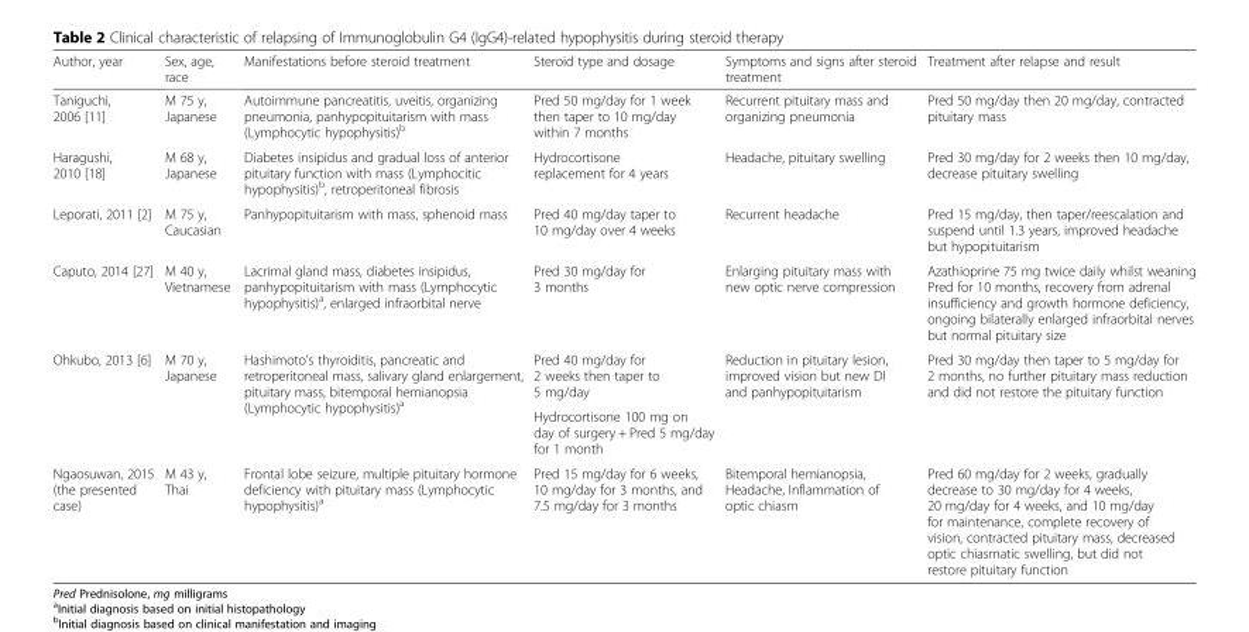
<table><thead><tr><td>Author, year</td><td>Sex, age, race</td><td>Manifestations before steroid treatment</td><td>Steroid type and dosage</td><td>Symptoms and signs after steroid treatment</td><td>Treatment after relapse and result</td></tr></thead><tbody><tr><td>Taniguchi, 2006 [11]</td><td>M 75 y, Japanese</td><td>Autoimmune pancreatitis, uveitis, organizing pneumonia, panhypopituitarism with mass (Lymphocytic hypophysitis)<sup>b</sup></td><td>Pred 50 mg/day for 1 week then taper to 10 mg/day within 7 months</td><td>Recurrent pituitary mass and organizing pneumonia</td><td>Pred 50 mg/day then 20 mg/day, contracted pituitary mass</td></tr><tr><td>Haragushi, 2010 [18]</td><td>M 68 y, Japanese</td><td>Diabetes insipidus and gradual loss of anterior pituitary function with mass (Lymphocitic hypophysitis)<sup>b</sup>, retroperitoneal fibrosis</td><td>Hydrocortisone replacement for 4 years</td><td>Headache, pituitary swelling</td><td>Pred 30 mg/day for 2 weeks then 10 mg/day, decrease pituitary swelling</td></tr><tr><td>Leporati, 2011 [2]</td><td>M 75 y, Caucasian</td><td>Panhypopituitarism with mass, sphenoid mass</td><td>Pred 40 mg/day taper to 10 mg/day over 4 weeks</td><td>Recurrent headache</td><td>Pred 15 mg/day, then taper/reescalation and suspend until 1.3 years, improved headache but hypopituitarism</td></tr><tr><td>Caputo, 2014 [27]</td><td>M 40 y, Vietnamese</td><td>Lacrimal gland mass, diabetes insipidus, panhypopituitarism with mass (Lymphocytic hypophysitis)<sup>a</sup>, enlarged infraorbital nerve</td><td>Pred 30 mg/day for 3 months</td><td>Enlarging pituitary mass with new optic nerve compression</td><td>Azathioprine 75 mg twice daily whilst weaning Pred for 10 months, recovery from adrenal insufficiency and growth hormone deficiency, ongoing bilaterally enlarged infraorbital nerves but normal pituitary size</td></tr><tr><td rowspan="2">Ohkubo, 2013 [6]</td><td rowspan="2">M 70 y, Japanese</td><td rowspan="2">Hashimoto’s thyroiditis, pancreatic and retroperitoneal mass, salivary gland enlargement, pituitary mass, bitemporal hemianopsia (Lymphocytic hypophysitis)<sup>a</sup></td><td>Pred 40 mg/day for 2 weeks then taper to 5 mg/day</td><td rowspan="2">Reduction in pituitary lesion, improved vision but new DI and panhypopituitarism</td><td rowspan="2">Pred 30 mg/day then taper to 5 mg/day for 2 months, no further pituitary mass reduction and did not restore the pituitary function</td></tr><tr><td>Hydrocortisone 100 mg on day of surgery + Pred 5 mg/day for 1 month</td></tr><tr><td>Ngaosuwan, 2015 (the presented case)</td><td>M 43 y, Thai</td><td>Frontal lobe seizure, multiple pituitary hormone deficiency with pituitary mass (Lymphocytic hypophysitis)<sup>a</sup></td><td>Pred 15 mg/day for 6 weeks, 10 mg/day for 3 months, and 7.5 mg/day for 3 months</td><td>Bitemporal hemianopsia, Headache, Inflammation of optic chiasm</td><td>Pred 60 mg/day for 2 weeks, gradually decrease to 30 mg/day for 4 weeks, 20 mg/day for 4 weeks, and 10 mg/day for maintenance, complete recovery of vision, contracted pituitary mass, decreased optic chiasmatic swelling, but did not restore pituitary function</td></tr></tbody></table>